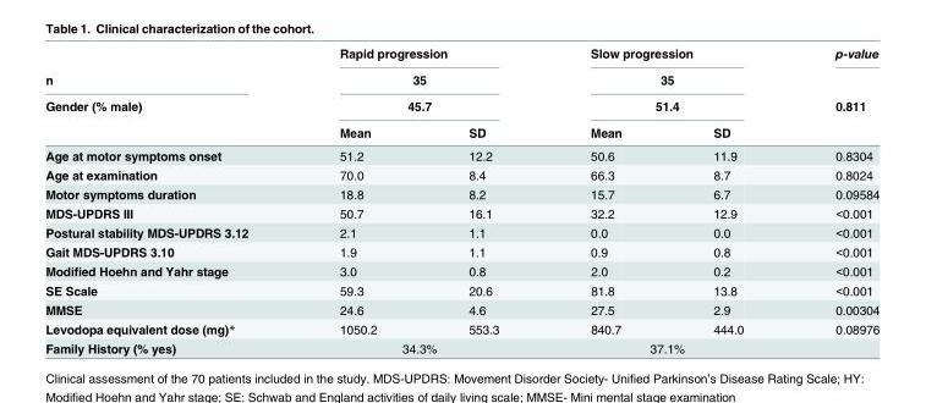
<table><thead><tr><td rowspan="4">n Gender (% male)</td><td rowspan="3" colspan="2">Rapid progression 35 45.7</td><td rowspan="3" colspan="2">Slow progression 35 51.4</td><td rowspan="4">p-value 0.811</td></tr><tr></tr><tr></tr><tr><td>Mean</td><td>SD</td><td>Mean</td><td>SD</td></tr></thead><tbody><tr><td>Age at motor symptoms onset</td><td>51.2</td><td>12.2</td><td>50.6</td><td>11.9</td><td>0.8304</td></tr><tr><td>Age at examination</td><td>70.0</td><td>8.4</td><td>66.3</td><td>8.7</td><td>0.8024</td></tr><tr><td>Motor symptoms duration</td><td>18.8</td><td>8.2</td><td>15.7</td><td>6.7</td><td>0.09584</td></tr><tr><td>MDS-UPDRS III</td><td>50.7</td><td>16.1</td><td>32.2</td><td>12.9</td><td>&lt;0.001</td></tr><tr><td>Postural stability MDS-UPDRS 3.12</td><td>2.1</td><td>1.1</td><td>0.0</td><td>0.0</td><td>&lt;0.001</td></tr><tr><td>Gait MDS-UPDRS 3.10</td><td>1.9</td><td>1.1</td><td>0.9</td><td>0.8</td><td>&lt;0.001</td></tr><tr><td>Modified Hoehn and Yahr stage</td><td>3.0</td><td>0.8</td><td>2.0</td><td>0.2</td><td>&lt;0.001</td></tr><tr><td>SE Scale</td><td>59.3</td><td>20.6</td><td>81.8</td><td>13.8</td><td>&lt;0.001</td></tr><tr><td>MMSE</td><td>24.6</td><td>4.6</td><td>27.5</td><td>2.9</td><td>0.00304</td></tr><tr><td>Levodopa equivalent dose (mg)*</td><td>1050.2</td><td>553.3</td><td>840.7</td><td>444.0</td><td>0.08976</td></tr><tr><td>Family History (% yes)</td><td colspan="2">34.3%</td><td colspan="2">37.1%</td><td></td></tr></tbody></table>